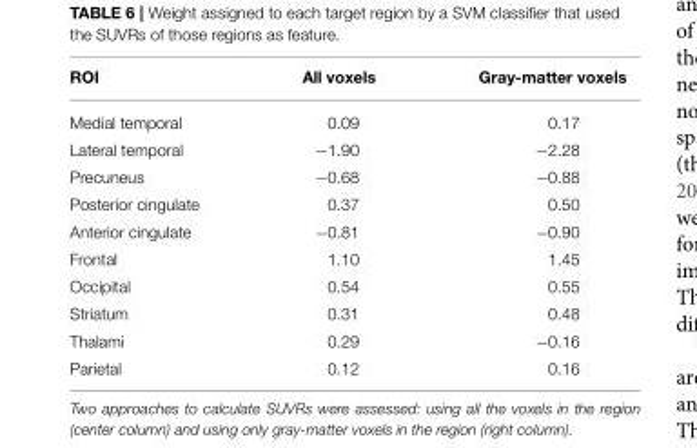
<table><thead><tr><td>ROI</td><td>All voxels</td><td>Gray-matter voxels</td></tr></thead><tbody><tr><td>Medial temporal</td><td>0.09</td><td>0.17</td></tr><tr><td>Lateral temporal</td><td>−1.90</td><td>−2.28</td></tr><tr><td>Precuneus</td><td>−0.68</td><td>−0.88</td></tr><tr><td>Posterior cingulate</td><td>0.37</td><td>0.50</td></tr><tr><td>Anterior cingulate</td><td>−0.81</td><td>−0.90</td></tr><tr><td>Frontal</td><td>1.10</td><td>1.45</td></tr><tr><td>Occipital</td><td>0.54</td><td>0.55</td></tr><tr><td>Striatum</td><td>0.31</td><td>0.48</td></tr><tr><td>Thalami</td><td>0.29</td><td>−0.16</td></tr><tr><td>Parietal</td><td>0.12</td><td>0.16</td></tr></tbody></table>